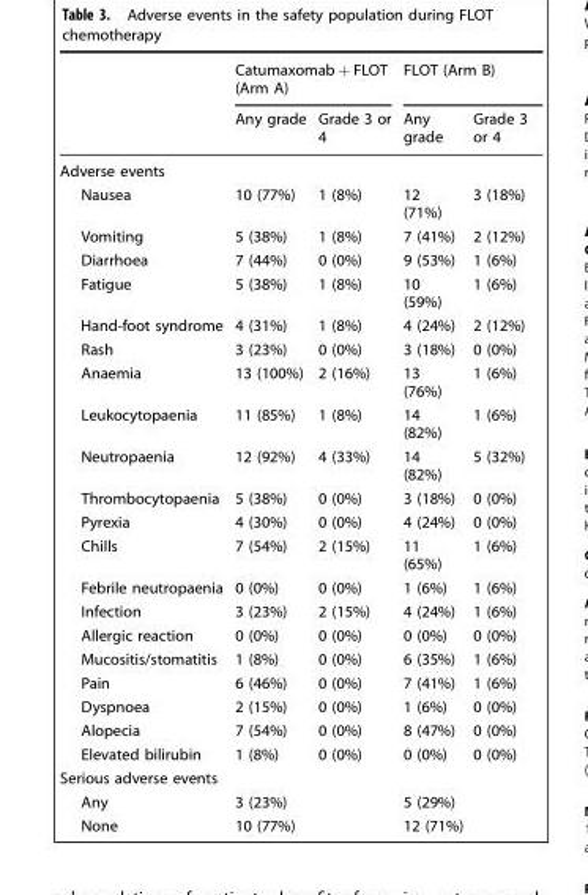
<table><thead><tr><td rowspan="2"></td><td colspan="2">Catumaxomab + FLOT (Arm A)</td><td colspan="2">FLOT (Arm B)</td></tr><tr><td>Any grade</td><td>Grade 3 or 4</td><td>Any grade</td><td>Grade 3 or 4</td></tr></thead><tbody><tr><td colspan="5">Adverse events</td></tr><tr><td>Nausea</td><td>10 (77%)</td><td>1 (8%)</td><td>12 (71%)</td><td>3 (18%)</td></tr><tr><td>Vomiting</td><td>5 (38%)</td><td>1 (8%)</td><td>7 (41%)</td><td>2 (12%)</td></tr><tr><td>Diarrhoea</td><td>7 (44%)</td><td>0 (0%)</td><td>9 (53%)</td><td>1 (6%)</td></tr><tr><td>Fatigue</td><td>5 (38%)</td><td>1 (8%)</td><td>10 (59%)</td><td>1 (6%)</td></tr><tr><td>Hand-foot syndrome</td><td>4 (31%)</td><td>1 (8%)</td><td>4 (24%)</td><td>2 (12%)</td></tr><tr><td>Rash</td><td>3 (23%)</td><td>0 (0%)</td><td>3 (18%)</td><td>0 (0%)</td></tr><tr><td>Anaemia</td><td>13 (100%)</td><td>2 (16%)</td><td>13 (76%)</td><td>1 (6%)</td></tr><tr><td>Leukocytopaenia</td><td>11 (85%)</td><td>1 (8%)</td><td>14 (82%)</td><td>1 (6%)</td></tr><tr><td>Neutropaenia</td><td>12 (92%)</td><td>4 (33%)</td><td>14 (82%)</td><td>5 (32%)</td></tr><tr><td>Thrombocytopaenia</td><td>5 (38%)</td><td>0 (0%)</td><td>3 (18%)</td><td>0 (0%)</td></tr><tr><td>Pyrexia</td><td>4 (30%)</td><td>0 (0%)</td><td>4 (24%)</td><td>0 (0%)</td></tr><tr><td>Chills</td><td>7 (54%)</td><td>2 (15%)</td><td>11 (65%)</td><td>1 (6%)</td></tr><tr><td>Febrile neutropaenia</td><td>0 (0%)</td><td>0 (0%)</td><td>1 (6%)</td><td>1 (6%)</td></tr><tr><td>Infection</td><td>3 (23%)</td><td>2 (15%)</td><td>4 (24%)</td><td>1 (6%)</td></tr><tr><td>Allergic reaction</td><td>0 (0%)</td><td>0 (0%)</td><td>0 (0%)</td><td>0 (0%)</td></tr><tr><td>Mucositis/stomatitis</td><td>1 (8%)</td><td>0 (0%)</td><td>6 (35%)</td><td>1 (6%)</td></tr><tr><td>Pain</td><td>6 (46%)</td><td>0 (0%)</td><td>7 (41%)</td><td>1 (6%)</td></tr><tr><td>Dyspnoea</td><td>2 (15%)</td><td>0 (0%)</td><td>1 (6%)</td><td>0 (0%)</td></tr><tr><td>Alopecia</td><td>7 (54%)</td><td>0 (0%)</td><td>8 (47%)</td><td>0 (0%)</td></tr><tr><td>Elevated bilirubin</td><td>1 (8%)</td><td>0 (0%)</td><td>0 (0%)</td><td>0 (0%)</td></tr><tr><td colspan="5">Serious adverse events</td></tr><tr><td>Any</td><td colspan="2">3 (23%)</td><td colspan="2">5 (29%)</td></tr><tr><td>None</td><td colspan="2">10 (77%)</td><td colspan="2">12 (71%)</td></tr></tbody></table>